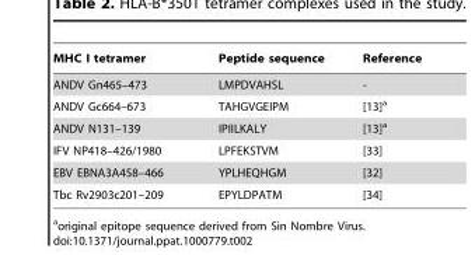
<table><thead><tr><td>MHC I tetramer</td><td>Peptide sequence</td><td>Reference</td></tr></thead><tbody><tr><td>ANDV Gn465–473</td><td>LMPDVAHSL</td><td>-</td></tr><tr><td>ANDV Gc664–673</td><td>TAHGVGEIPM</td><td>[13]a</td></tr><tr><td>ANDV N131–139</td><td>IPIILKALY</td><td>[13]a</td></tr><tr><td>IFV NP418–426/1980</td><td>LPFEKSTVM</td><td>[33]</td></tr><tr><td>EBV EBNA3A458–466</td><td>YPLHEQHGM</td><td>[32]</td></tr><tr><td>Tbc Rv2903c201–209</td><td>EPYLDPATM</td><td>[34]</td></tr></tbody></table>